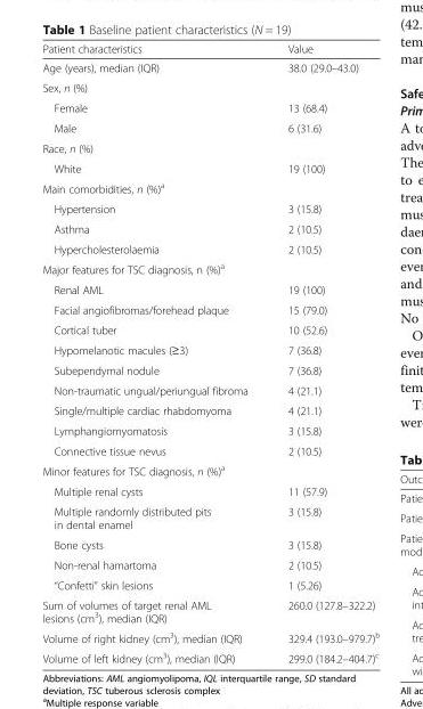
<table><thead><tr><td>Patient characteristics</td><td>Value</td></tr></thead><tbody><tr><td>Age (years), median (IQR)</td><td>38.0 (29.0–43.0)</td></tr><tr><td colspan="2">Sex, n (%)</td></tr><tr><td>Female</td><td>13 (68.4)</td></tr><tr><td>Male</td><td>6 (31.6)</td></tr><tr><td colspan="2">Race, n (%)</td></tr><tr><td>White</td><td>19 (100)</td></tr><tr><td colspan="2">Main comorbidities, n (%)<sup>a</sup></td></tr><tr><td>Hypertension</td><td>3 (15.8)</td></tr><tr><td>Asthma</td><td>2 (10.5)</td></tr><tr><td>Hypercholesterolaemia</td><td>2 (10.5)</td></tr><tr><td colspan="2">Major features for TSC diagnosis, n (%)<sup>a</sup></td></tr><tr><td>Renal AML</td><td>19 (100)</td></tr><tr><td>Facial angiofibromas/forehead plaque</td><td>15 (79.0)</td></tr><tr><td>Cortical tuber</td><td>10 (52.6)</td></tr><tr><td>Hypomelanotic macules (≥3)</td><td>7 (36.8)</td></tr><tr><td>Subependymal nodule</td><td>7 (36.8)</td></tr><tr><td>Non-traumatic ungual/periungual fibroma</td><td>4 (21.1)</td></tr><tr><td>Single/multiple cardiac rhabdomyoma</td><td>4 (21.1)</td></tr><tr><td>Lymphangiomyomatosis</td><td>3 (15.8)</td></tr><tr><td>Connective tissue nevus</td><td>2 (10.5)</td></tr><tr><td colspan="2">Minor features for TSC diagnosis, n (%)<sup>a</sup></td></tr><tr><td>Multiple renal cysts</td><td>11 (57.9)</td></tr><tr><td>Multiple randomly distributed pits in dental enamel</td><td>3 (15.8)</td></tr><tr><td>Bone cysts</td><td>3 (15.8)</td></tr><tr><td>Non-renal hamartoma</td><td>2 (10.5)</td></tr><tr><td>“Confetti” skin lesions</td><td>1 (5.26)</td></tr><tr><td>Sum of volumes of target renal AML lesions (cm<sup>3</sup>), median (IQR)</td><td>260.0 (127.8–322.2)</td></tr><tr><td>Volume of right kidney (cm<sup>3</sup>), median (IQR)</td><td>329.4 (193.0–979.7)<sup>b</sup></td></tr><tr><td>Volume of left kidney (cm<sup>3</sup>), median (IQR)</td><td>299.0 (184.2–404.7)<sup>c</sup></td></tr></tbody></table>